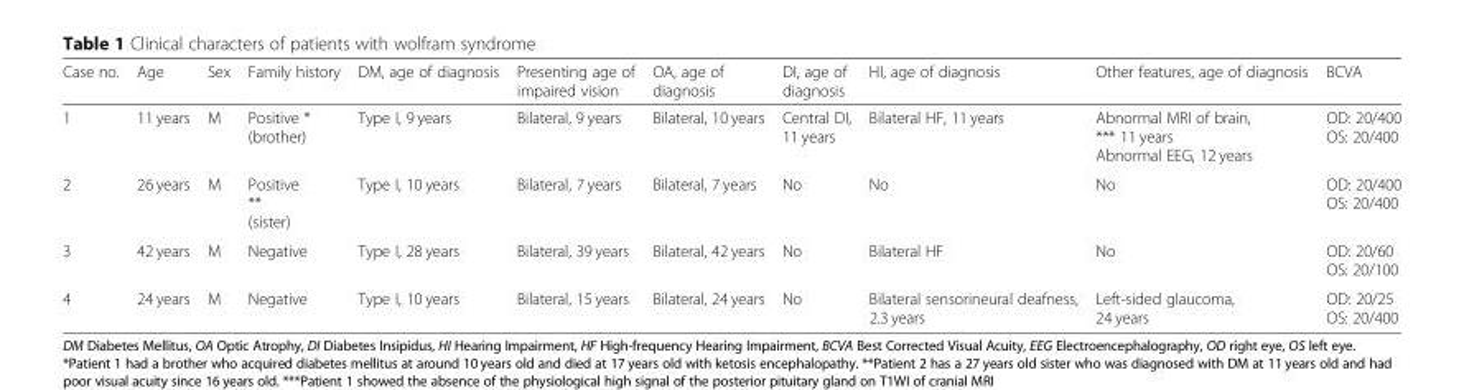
<table><thead><tr><td>Case no.</td><td>Age</td><td>Sex</td><td>Family history</td><td>DM, age of diagnosis</td><td>Presenting age of impaired vision</td><td>OA, age of diagnosis</td><td>DI, age of diagnosis</td><td>HI, age of diagnosis</td><td>Other features, age of diagnosis</td><td>BCVA</td></tr></thead><tbody><tr><td>1</td><td>11 years</td><td>M</td><td>Positive * (brother)</td><td>Type I, 9 years</td><td>Bilateral, 9 years</td><td>Bilateral, 10 years</td><td>Central DI, 11 years</td><td>Bilateral HF, 11 years</td><td>Abnormal MRI of brain, *** 11 years Abnormal EEG, 12 years</td><td>OD: 20/400 OS: 20/400</td></tr><tr><td>2</td><td>26 years</td><td>M</td><td>Positive ** (sister)</td><td>Type I, 10 years</td><td>Bilateral, 7 years</td><td>Bilateral, 7 years</td><td>No</td><td>No</td><td>No</td><td>OD: 20/400 OS: 20/400</td></tr><tr><td>3</td><td>42 years</td><td>M</td><td>Negative</td><td>Type I, 28 years</td><td>Bilateral, 39 years</td><td>Bilateral, 42 years</td><td>No</td><td>Bilateral HF</td><td>No</td><td>OD: 20/60 OS: 20/100</td></tr><tr><td>4</td><td>24 years</td><td>M</td><td>Negative</td><td>Type I, 10 years</td><td>Bilateral, 15 years</td><td>Bilateral, 24 years</td><td>No</td><td>Bilateral sensorineural deafness, 2.3 years</td><td>Left-sided glaucoma, 24 years</td><td>OD: 20/25 OS: 20/400</td></tr></tbody></table>